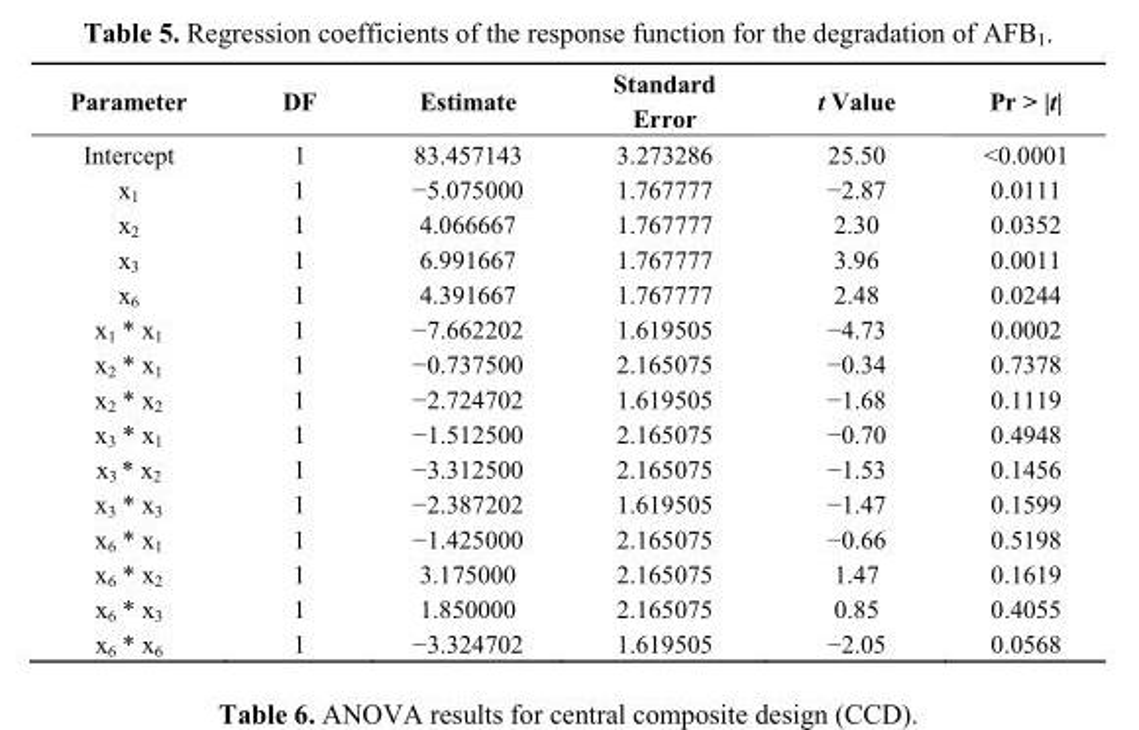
<table><thead><tr><td>Parameter</td><td>DF</td><td>Estimate</td><td>Standard Error</td><td>t Value</td><td>Pr &gt; |t|</td></tr></thead><tbody><tr><td>Intercept</td><td>1</td><td>83.457143</td><td>3.273286</td><td>25.50</td><td>&lt;0.0001</td></tr><tr><td>x<sub>1</sub></td><td>1</td><td>−5.075000</td><td>1.767777</td><td>−2.87</td><td>0.0111</td></tr><tr><td>x<sub>2</sub></td><td>1</td><td>4.066667</td><td>1.767777</td><td>2.30</td><td>0.0352</td></tr><tr><td>x<sub>3</sub></td><td>1</td><td>6.991667</td><td>1.767777</td><td>3.96</td><td>0.0011</td></tr><tr><td>x<sub>6</sub></td><td>1</td><td>4.391667</td><td>1.767777</td><td>2.48</td><td>0.0244</td></tr><tr><td>x<sub>1</sub> * x<sub>1</sub></td><td>1</td><td>−7.662202</td><td>1.619505</td><td>−4.73</td><td>0.0002</td></tr><tr><td>x<sub>2</sub> * x<sub>1</sub></td><td>1</td><td>−0.737500</td><td>2.165075</td><td>−0.34</td><td>0.7378</td></tr><tr><td>x<sub>2</sub> * x<sub>2</sub></td><td>1</td><td>−2.724702</td><td>1.619505</td><td>−1.68</td><td>0.1119</td></tr><tr><td>x<sub>3</sub> * x<sub>1</sub></td><td>1</td><td>−1.512500</td><td>2.165075</td><td>−0.70</td><td>0.4948</td></tr><tr><td>x<sub>3</sub> * x<sub>2</sub></td><td>1</td><td>−3.312500</td><td>2.165075</td><td>−1.53</td><td>0.1456</td></tr><tr><td>x<sub>3</sub> * x<sub>3</sub></td><td>1</td><td>−2.387202</td><td>1.619505</td><td>−1.47</td><td>0.1599</td></tr><tr><td>x<sub>6</sub> * x<sub>1</sub></td><td>1</td><td>−1.425000</td><td>2.165075</td><td>−0.66</td><td>0.5198</td></tr><tr><td>x<sub>6</sub> * x<sub>2</sub></td><td>1</td><td>3.175000</td><td>2.165075</td><td>1.47</td><td>0.1619</td></tr><tr><td>x<sub>6</sub> * x<sub>3</sub></td><td>1</td><td>1.850000</td><td>2.165075</td><td>0.85</td><td>0.4055</td></tr><tr><td>x<sub>6</sub> * x<sub>6</sub></td><td>1</td><td>−3.324702</td><td>1.619505</td><td>−2.05</td><td>0.0568</td></tr></tbody></table>